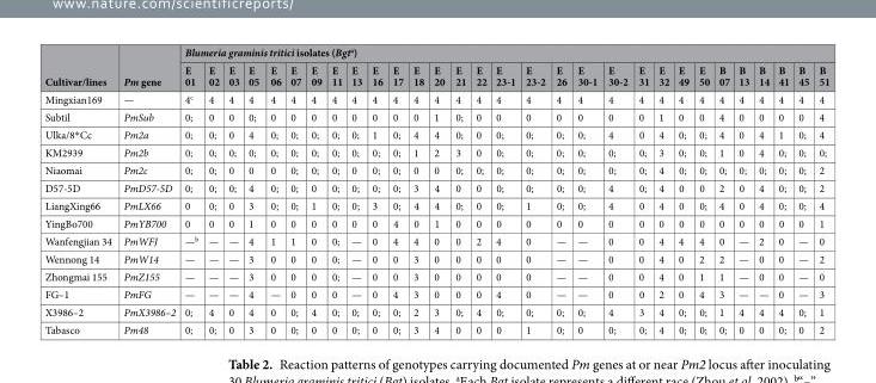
<table><thead><tr><td rowspan="2">Cultivar/lines</td><td rowspan="2">Pm gene</td><td colspan="30">Blumeria graminis tritici isolates (Bgt<sup>a</sup>)</td></tr><tr><td>E 01</td><td>E 02</td><td>E 03</td><td>E 05</td><td>E 06</td><td>E 07</td><td>E 09</td><td>E 11</td><td>E 13</td><td>E 16</td><td>E 17</td><td>E 18</td><td>E 20</td><td>E 21</td><td>E 22</td><td>E 23-1</td><td>E 23-2</td><td>E 26</td><td>E 30-1</td><td>E 30-2</td><td>E 31</td><td>E 32</td><td>E 49</td><td>E 50</td><td>B 07</td><td>B 13</td><td>B 14</td><td>B 41</td><td>B 45</td><td>B 51</td></tr></thead><tbody><tr><td>Mingxian169</td><td>—</td><td>4<sup>c</sup></td><td>4</td><td>4</td><td>4</td><td>4</td><td>4</td><td>4</td><td>4</td><td>4</td><td>4</td><td>4</td><td>4</td><td>4</td><td>4</td><td>4</td><td>4</td><td>4</td><td>4</td><td>4</td><td>4</td><td>4</td><td>4</td><td>4</td><td>4</td><td>4</td><td>4</td><td>4</td><td>4</td><td>4</td><td>4</td></tr><tr><td>Subtil</td><td>PmSub</td><td>0;</td><td>0</td><td>0</td><td>0;</td><td>0</td><td>0</td><td>0</td><td>0</td><td>0</td><td>0</td><td>0</td><td>0</td><td>1</td><td>0;</td><td>0</td><td>0</td><td>0</td><td>0</td><td>0</td><td>0</td><td>0</td><td>1</td><td>0</td><td>0</td><td>4</td><td>0</td><td>0</td><td>0</td><td>0</td><td>4</td></tr><tr><td>Ulka/8*Cc</td><td>Pm2a</td><td>0;</td><td>0;</td><td>0</td><td>4</td><td>0;</td><td>0;</td><td>0;</td><td>0;</td><td>0;</td><td>1</td><td>0;</td><td>4</td><td>4</td><td>0;</td><td>0</td><td>0;</td><td>0;</td><td>0;</td><td>0;</td><td>4</td><td>0</td><td>4</td><td>0;</td><td>0;</td><td>4</td><td>0</td><td>4</td><td>1</td><td>0;</td><td>4</td></tr><tr><td>KM2939</td><td>Pm2b</td><td>0;</td><td>0;</td><td>0;</td><td>0;</td><td>0;</td><td>0;</td><td>0;</td><td>0;</td><td>0;</td><td>0;</td><td>0;</td><td>1</td><td>2</td><td>3</td><td>0</td><td>0;</td><td>0;</td><td>0;</td><td>0;</td><td>0;</td><td>0;</td><td>3</td><td>0;</td><td>0;</td><td>1</td><td>0</td><td>4</td><td>0;</td><td>0;</td><td>0;</td></tr><tr><td>Niaomai</td><td>Pm2c</td><td>0;</td><td>0;</td><td>0</td><td>0</td><td>0</td><td>0;</td><td>0;</td><td>0;</td><td>0</td><td>0;</td><td>0;</td><td>0</td><td>0</td><td>0;</td><td>0;</td><td>0;</td><td>0;</td><td>0;</td><td>0;</td><td>0;</td><td>0;</td><td>4</td><td>0;</td><td>0;</td><td>0;</td><td>0;</td><td>0;</td><td>0;</td><td>0;</td><td>2</td></tr><tr><td>D57-5D</td><td>PmD57-5D</td><td>0;</td><td>0;</td><td>0;</td><td>4</td><td>0;</td><td>0;</td><td>0</td><td>0;</td><td>0;</td><td>0;</td><td>0;</td><td>3</td><td>4</td><td>0</td><td>0</td><td>0;</td><td>0;</td><td>0;</td><td>0;</td><td>4</td><td>0;</td><td>4</td><td>0</td><td>0</td><td>2</td><td>0</td><td>4</td><td>0;</td><td>0;</td><td>2</td></tr><tr><td>LiangXing66</td><td>PmLX66</td><td>0</td><td>0;</td><td>0</td><td>3</td><td>0;</td><td>0;</td><td>1</td><td>0;</td><td>0;</td><td>3</td><td>0;</td><td>4</td><td>4</td><td>0;</td><td>0</td><td>0;</td><td>1</td><td>0;</td><td>0;</td><td>4</td><td>0</td><td>4</td><td>0</td><td>0;</td><td>4</td><td>0</td><td>4</td><td>0;</td><td>0;</td><td>4</td></tr><tr><td>YingBo700</td><td>PmYB700</td><td>0</td><td>0</td><td>0</td><td>1</td><td>0</td><td>0</td><td>0</td><td>0</td><td>0</td><td>0</td><td>4</td><td>0</td><td>1</td><td>0</td><td>0</td><td>0</td><td>0</td><td>0</td><td>0</td><td>0</td><td>0</td><td>0</td><td>0</td><td>0</td><td>0</td><td>0</td><td>0</td><td>0</td><td>0</td><td>1</td></tr><tr><td>Wanfengjian 34</td><td>PmWFJ</td><td>—<sup>b</sup></td><td>—</td><td>—</td><td>4</td><td>1</td><td>1</td><td>0</td><td>0;</td><td>—</td><td>0</td><td>4</td><td>4</td><td>0</td><td>0</td><td>2</td><td>4</td><td>0</td><td>—</td><td>—</td><td>0</td><td>0</td><td>4</td><td>4</td><td>4</td><td>0</td><td>—</td><td>2</td><td>0</td><td>—</td><td>0</td></tr><tr><td>Wennong 14</td><td>PmW14</td><td>—</td><td>—</td><td>—</td><td>3</td><td>0</td><td>0</td><td>0</td><td>0;</td><td>—</td><td>0</td><td>0</td><td>3</td><td>0</td><td>0</td><td>0</td><td>0</td><td>0</td><td>—</td><td>—</td><td>0</td><td>0</td><td>4</td><td>0</td><td>2</td><td>2</td><td>—</td><td>0</td><td>0</td><td>—</td><td>2</td></tr><tr><td>Zhongmai 155</td><td>PmZ155</td><td>—</td><td>—</td><td>—</td><td>3</td><td>0</td><td>0</td><td>0</td><td>0;</td><td>—</td><td>0</td><td>0</td><td>3</td><td>0</td><td>0</td><td>0</td><td>0</td><td>0</td><td>—</td><td>—</td><td>0</td><td>0</td><td>4</td><td>0</td><td>1</td><td>1</td><td>—</td><td>0</td><td>0</td><td>—</td><td>0</td></tr><tr><td>FG–1</td><td>PmFG</td><td>—</td><td>—</td><td>—</td><td>4</td><td>—</td><td>0</td><td>0</td><td>0</td><td>—</td><td>0</td><td>4</td><td>3</td><td>0</td><td>0</td><td>0</td><td>4</td><td>0</td><td>—</td><td>—</td><td>0</td><td>0</td><td>2</td><td>0</td><td>4</td><td>3</td><td>—</td><td>—</td><td>0</td><td>—</td><td>3</td></tr><tr><td>X3986–2</td><td>PmX3986–2</td><td>0;</td><td>4</td><td>0</td><td>4</td><td>0</td><td>0;</td><td>4</td><td>0;</td><td>0;</td><td>0;</td><td>0;</td><td>2</td><td>3</td><td>0;</td><td>4</td><td>0;</td><td>0;</td><td>0;</td><td>0;</td><td>4</td><td>3</td><td>4</td><td>0;</td><td>0;</td><td>1</td><td>4</td><td>4</td><td>4</td><td>0;</td><td>1</td></tr><tr><td>Tabasco</td><td>Pm48</td><td>0;</td><td>0;</td><td>0</td><td>3</td><td>0</td><td>0;</td><td>0</td><td>0</td><td>0;</td><td>0</td><td>0;</td><td>3</td><td>4</td><td>0</td><td>0</td><td>0</td><td>1</td><td>0;</td><td>0</td><td>0;</td><td>0;</td><td>4</td><td>0;</td><td>0;</td><td>0;</td><td>0</td><td>0</td><td>0;</td><td>0</td><td>2</td></tr></tbody></table>